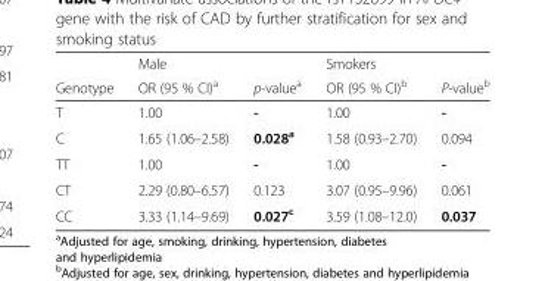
<table><thead><tr><td rowspan="2">Genotype</td><td colspan="2">Male</td><td colspan="2">Smokers</td></tr><tr><td>OR (95 % CI)<sup>a</sup></td><td>p-value<sup>a</sup></td><td>OR (95 % CI)<sup>b</sup></td><td>P-value<sup>b</sup></td></tr></thead><tbody><tr><td>T</td><td>1.00</td><td>-</td><td>1.00</td><td>-</td></tr><tr><td>C</td><td>1.65 (1.06–2.58)</td><td>0.028<sup>a</sup></td><td>1.58 (0.93–2.70)</td><td>0.094</td></tr><tr><td>TT</td><td>1.00</td><td>-</td><td>1.00</td><td>-</td></tr><tr><td>CT</td><td>2.29 (0.80–6.57)</td><td>0.123</td><td>3.07 (0.95–9.96)</td><td>0.061</td></tr><tr><td>CC</td><td>3.33 (1.14–9.69)</td><td>0.027<sup>c</sup></td><td>3.59 (1.08–12.0)</td><td>0.037</td></tr></tbody></table>